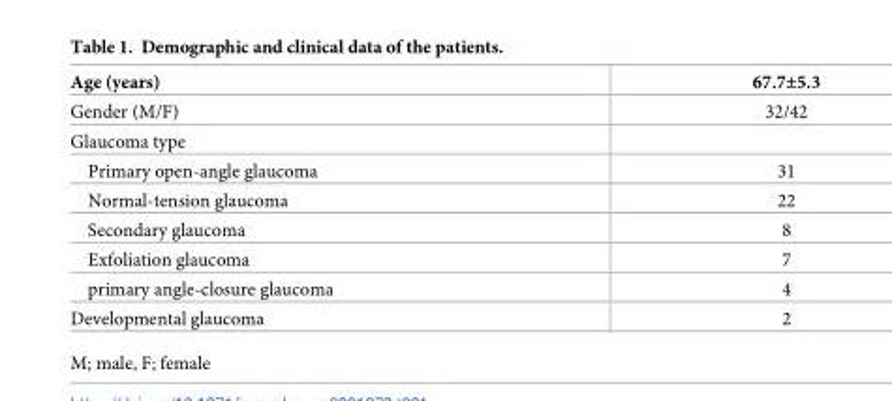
<table><thead><tr><td>Age (years)</td><td>67.7±5.3</td></tr></thead><tbody><tr><td>Gender (M/F)</td><td>32/42</td></tr><tr><td colspan="2">Glaucoma type</td></tr><tr><td>Primary open-angle glaucoma</td><td>31</td></tr><tr><td>Normal-tension glaucoma</td><td>22</td></tr><tr><td>Secondary glaucoma</td><td>8</td></tr><tr><td>Exfoliation glaucoma</td><td>7</td></tr><tr><td>primary angle-closure glaucoma</td><td>4</td></tr><tr><td>Developmental glaucoma</td><td>2</td></tr></tbody></table>